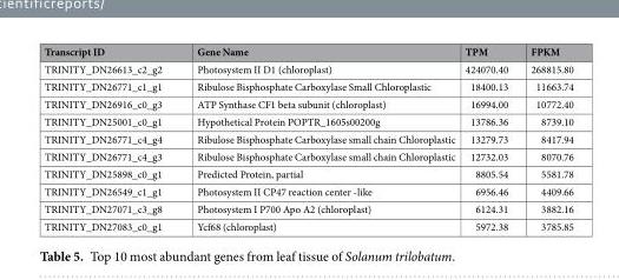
<table><thead><tr><td>Transcript ID</td><td>Gene Name</td><td>TPM</td><td>FPKM</td></tr></thead><tbody><tr><td>TRINITY_DN26613_c2_g2</td><td>Photosystem II D1 (chloroplast)</td><td>424070.40</td><td>268815.80</td></tr><tr><td>TRINITY_DN26771_c1_g1</td><td>Ribulose Bisphosphate Carboxylase Small Chloroplastic</td><td>18400.13</td><td>11663.74</td></tr><tr><td>TRINITY_DN26916_c0_g3</td><td>ATP Synthase CF1 beta subunit (chloroplast)</td><td>16994.00</td><td>10772.40</td></tr><tr><td>TRINITY_DN25001_c0_g1</td><td>Hypothetical Protein POPTR_1605s00200g</td><td>13786.36</td><td>8739.10</td></tr><tr><td>TRINITY_DN26771_c4_g4</td><td>Ribulose Bisphosphate Carboxylase small chain Chloroplastic</td><td>13279.73</td><td>8417.94</td></tr><tr><td>TRINITY_DN26771_c4_g3</td><td>Ribulose Bisphosphate Carboxylase small chain Chloroplastic</td><td>12732.03</td><td>8070.76</td></tr><tr><td>TRINITY_DN25898_c0_g1</td><td>Predicted Protein, partial</td><td>8805.54</td><td>5581.78</td></tr><tr><td>TRINITY_DN26549_c1_g1</td><td>Photosystem II CP47 reaction center -like</td><td>6956.46</td><td>4409.66</td></tr><tr><td>TRINITY_DN27071_c3_g8</td><td>Photosystem I P700 Apo A2 (chloroplast)</td><td>6124.31</td><td>3882.16</td></tr><tr><td>TRINITY_DN27083_c0_g1</td><td>Ycf68 (chloroplast)</td><td>5972.38</td><td>3785.85</td></tr></tbody></table>